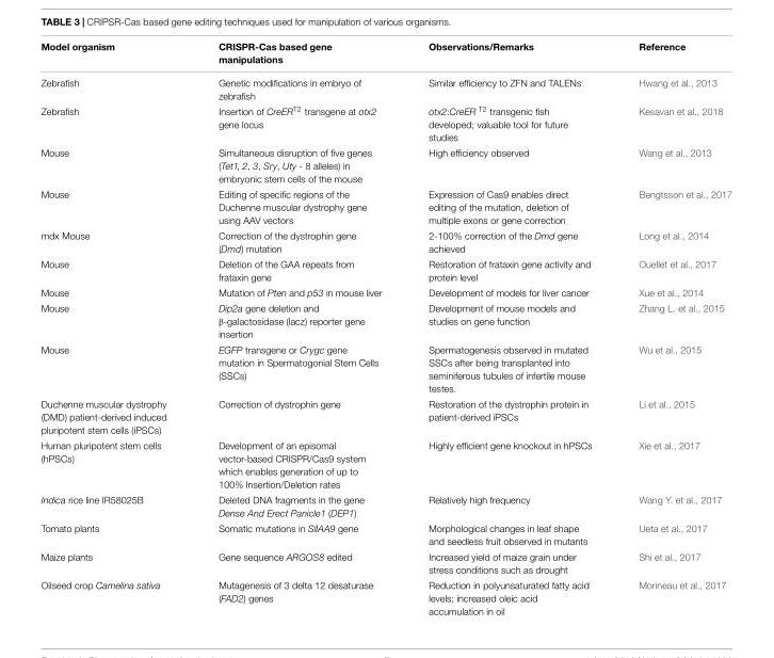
<table><thead><tr><td>Model organism</td><td>CRISPR-Cas based gene manipulations</td><td>Observations/Remarks</td><td>Reference</td></tr></thead><tbody><tr><td>Zebrafish</td><td>Genetic modifications in embryo of zebrafish</td><td>Similar efficiency to ZFN and TALENs</td><td>Hwang et al., 2013</td></tr><tr><td>Zebrafish</td><td>Insertion of CreER<sup>T2</sup> transgene at otx2 gene locus</td><td>otx2:CreER <sup>T2</sup> transgenic fish developed; valuable tool for future studies</td><td>Kesavan et al., 2018</td></tr><tr><td>Mouse</td><td>Simultaneous disruption of five genes (Tet1, 2, 3, Sry, Uty - 8 alleles) in embryonic stem cells of the mouse</td><td>High efficiency observed</td><td>Wang et al., 2013</td></tr><tr><td>Mouse</td><td>Editing of specific regions of the Duchenne muscular dystrophy gene using AAV vectors</td><td>Expression of Cas9 enables direct editing of the mutation, deletion of multiple exons or gene correction</td><td>Bengtsson et al., 2017</td></tr><tr><td>mdx Mouse</td><td>Correction of the dystrophin gene (Dmd) mutation</td><td>2-100% correction of the Dmd gene achieved</td><td>Long et al., 2014</td></tr><tr><td>Mouse</td><td>Deletion of the GAA repeats from frataxin gene</td><td>Restoration of frataxin gene activity and protein level</td><td>Ouellet et al., 2017</td></tr><tr><td>Mouse</td><td>Mutation of Pten and p53 in mouse liver</td><td>Development of models for liver cancer</td><td>Xue et al., 2014</td></tr><tr><td>Mouse</td><td>Dip2a gene deletion and β-galactosidase (lacz) reporter gene insertion</td><td>Development of mouse models and studies on gene function</td><td>Zhang L. et al., 2015</td></tr><tr><td>Mouse</td><td>EGFP transgene or Crygc gene mutation in Spermatogonial Stem Cells (SSCs)</td><td>Spermatogenesis observed in mutated SSCs after being transplanted into seminiferous tubules of infertile mouse testes.</td><td>Wu et al., 2015</td></tr><tr><td>Duchenne muscular dystrophy (DMD) patient-derived induced pluripotent stem cells (iPSCs)</td><td>Correction of dystrophin gene</td><td>Restoration of the dystrophin protein in patient-derived iPSCs</td><td>Li et al., 2015</td></tr><tr><td>Human pluripotent stem cells (hPSCs)</td><td>Development of an episomal vector-based CRISPR/Cas9 system which enables generation of up to 100% Insertion/Deletion rates</td><td>Highly efficient gene knockout in hPSCs</td><td>Xie et al., 2017</td></tr><tr><td>Indica rice line IR58025B</td><td>Deleted DNA fragments in the gene Dense And Erect Panicle1 (DEP1)</td><td>Relatively high frequency</td><td>Wang Y. et al., 2017</td></tr><tr><td>Tomato plants</td><td>Somatic mutations in SlIAA9 gene</td><td>Morphological changes in leaf shape and seedless fruit observed in mutants</td><td>Ueta et al., 2017</td></tr><tr><td>Maize plants</td><td>Gene sequence ARGOS8 edited</td><td>Increased yield of maize grain under stress conditions such as drought</td><td>Shi et al., 2017</td></tr><tr><td>Oilseed crop Camelina sativa</td><td>Mutagenesis of 3 delta 12 desaturase (FAD2) genes</td><td>Reduction in polyunsaturated fatty acid levels; increased oleic acid accumulation in oil</td><td>Morineau et al., 2017</td></tr></tbody></table>